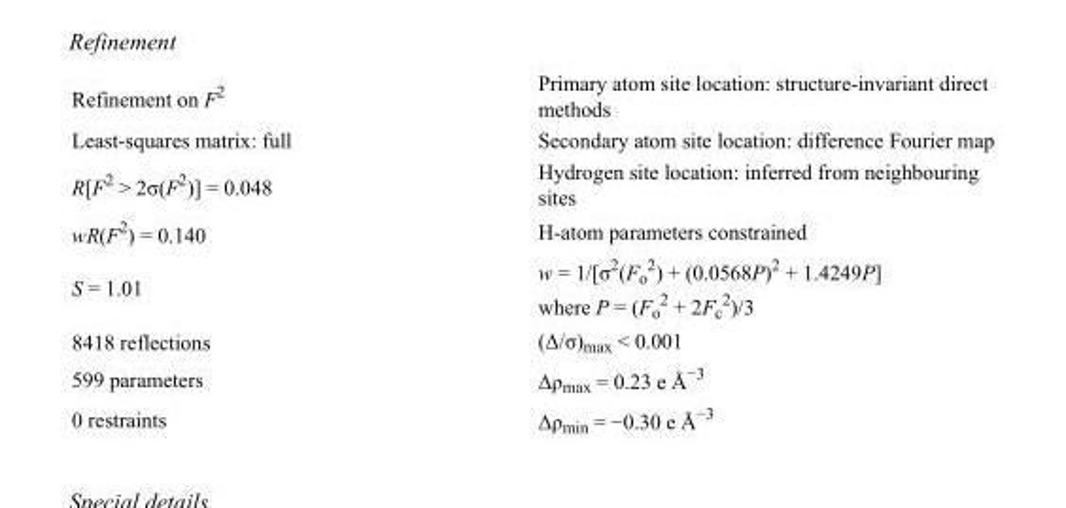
<table><tbody><tr><td>Refinement on F<sup>2</sup></td><td>Primary atom site location: structure-invariant direct methods</td></tr><tr><td>Least-squares matrix: full</td><td>Secondary atom site location: difference Fourier map</td></tr><tr><td>R[F<sup>2</sup> &gt; 2σ(F<sup>2</sup>)] = 0.048</td><td>Hydrogen site location: inferred from neighbouring sites</td></tr><tr><td>wR(F<sup>2</sup>) = 0.140</td><td>H-atom parameters constrained</td></tr><tr><td>S = 1.01</td><td>w = 1/[σ<sup>2</sup>(F<sub>o</sub> <sup>2</sup>) + (0.0568P)<sup>2</sup> + 1.4249P] where P = (F<sub>o</sub> <sup>2</sup> + 2F<sub>c</sub> <sup>2</sup>)/3</td></tr><tr><td>8418 reflections</td><td>(Δ/σ)<sub>max</sub> &lt; 0.001</td></tr><tr><td>599 parameters</td><td>Δρ<sub>max</sub> = 0.23 e Å<sup>−3</sup></td></tr><tr><td>0 restraints</td><td>Δρ<sub>min</sub> = −0.30 e Å<sup>−3</sup></td></tr></tbody></table>